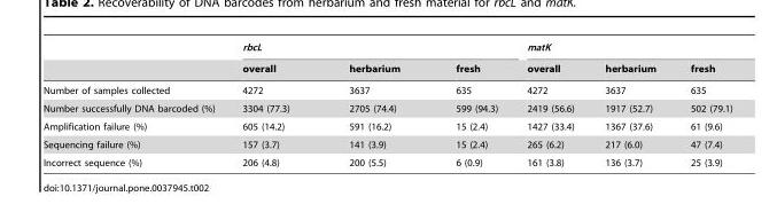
<table><thead><tr><td rowspan="2"></td><td colspan="3">rbcL</td><td colspan="3">matK</td></tr><tr><td>overall</td><td>herbarium</td><td>fresh</td><td>overall</td><td>herbarium</td><td>fresh</td></tr></thead><tbody><tr><td>Number of samples collected</td><td>4272</td><td>3637</td><td>635</td><td>4272</td><td>3637</td><td>635</td></tr><tr><td>Number successfully DNA barcoded (%)</td><td>3304 (77.3)</td><td>2705 (74.4)</td><td>599 (94.3)</td><td>2419 (56.6)</td><td>1917 (52.7)</td><td>502 (79.1)</td></tr><tr><td>Amplification failure (%)</td><td>605 (14.2)</td><td>591 (16.2)</td><td>15 (2.4)</td><td>1427 (33.4)</td><td>1367 (37.6)</td><td>61 (9.6)</td></tr><tr><td>Sequencing failure (%)</td><td>157 (3.7)</td><td>141 (3.9)</td><td>15 (2.4)</td><td>265 (6.2)</td><td>217 (6.0)</td><td>47 (7.4)</td></tr><tr><td>Incorrect sequence (%)</td><td>206 (4.8)</td><td>200 (5.5)</td><td>6 (0.9)</td><td>161 (3.8)</td><td>136 (3.7)</td><td>25 (3.9)</td></tr></tbody></table>